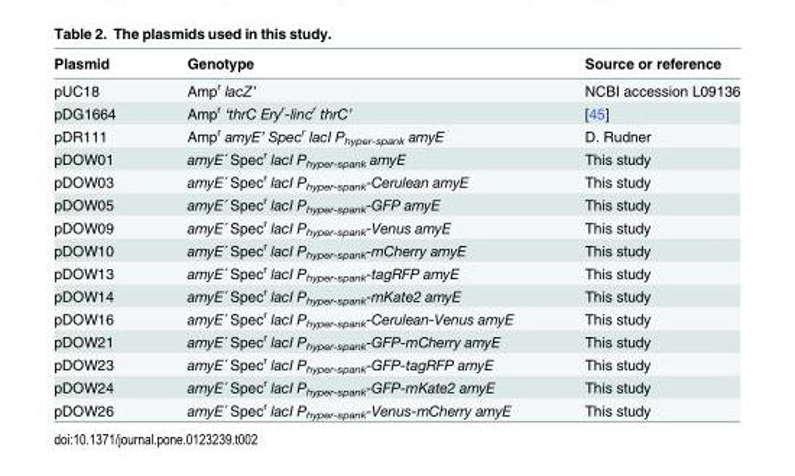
<table><thead><tr><td>Plasmid</td><td>Genotype</td><td>Source or reference</td></tr></thead><tbody><tr><td>pUC18</td><td>Amp<sup>r</sup> lacZ’</td><td>NCBI accession L09136</td></tr><tr><td>pDG1664</td><td>Amp<sup>r</sup> ‘thrC Ery<sup>r</sup>-linc<sup>r</sup> thrC’</td><td>[45]</td></tr><tr><td>pDR111</td><td>Amp<sup>r</sup> amyE’ Spec<sup>r</sup> lacI P<sub>hyper-spank</sub> amyE</td><td>D. Rudner</td></tr><tr><td>pDOW01</td><td>amyE´ Spec<sup>r</sup> lacI P<sub>hyper-spank</sub> amyE</td><td>This study</td></tr><tr><td>pDOW03</td><td>amyE´ Spec<sup>r</sup> lacI P<sub>hyper-spank</sub>-Cerulean amyE</td><td>This study</td></tr><tr><td>pDOW05</td><td>amyE´ Spec<sup>r</sup> lacI P<sub>hyper-spank</sub>-GFP amyE</td><td>This study</td></tr><tr><td>pDOW09</td><td>amyE´ Spec<sup>r</sup> lacI P<sub>hyper-spank</sub>-Venus amyE</td><td>This study</td></tr><tr><td>pDOW10</td><td>amyE´ Spec<sup>r</sup> lacI P<sub>hyper-spank</sub>-mCherry amyE</td><td>This study</td></tr><tr><td>pDOW13</td><td>amyE´ Spec<sup>r</sup> lacI P<sub>hyper-spank</sub>-tagRFP amyE</td><td>This study</td></tr><tr><td>pDOW14</td><td>amyE´ Spec<sup>r</sup> lacI P<sub>hyper-spank</sub>-mKate2 amyE</td><td>This study</td></tr><tr><td>pDOW16</td><td>amyE´ Spec<sup>r</sup> lacI P<sub>hyper-spank</sub>-Cerulean-Venus amyE</td><td>This study</td></tr><tr><td>pDOW21</td><td>amyE´ Spec<sup>r</sup> lacI P<sub>hyper-spank</sub>-GFP-mCherry amyE</td><td>This study</td></tr><tr><td>pDOW23</td><td>amyE´ Spec<sup>r</sup> lacI P<sub>hyper-spank</sub>-GFP-tagRFP amyE</td><td>This study</td></tr><tr><td>pDOW24</td><td>amyE´ Spec<sup>r</sup> lacI P<sub>hyper-spank</sub>-GFP-mKate2 amyE</td><td>This study</td></tr><tr><td>pDOW26</td><td>amyE´ Spec<sup>r</sup> lacI P<sub>hyper-spank</sub>-Venus-mCherry amyE</td><td>This study</td></tr></tbody></table>